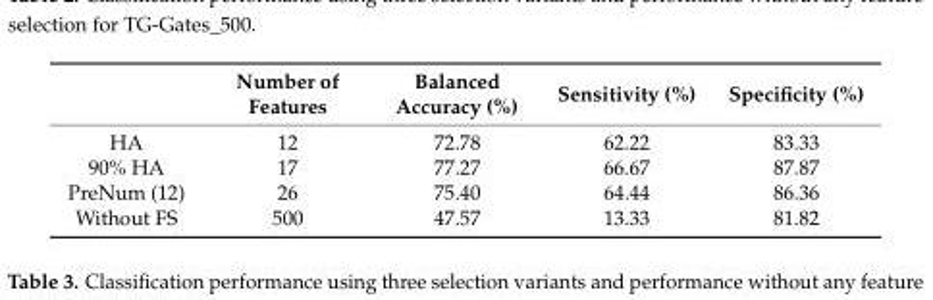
<table><thead><tr><td></td><td>Number of Features</td><td>Balanced Accuracy (%)</td><td>Sensitivity (%)</td><td>Specificity (%)</td></tr></thead><tbody><tr><td>HA</td><td>12</td><td>72.78</td><td>62.22</td><td>83.33</td></tr><tr><td>90% HA</td><td>17</td><td>77.27</td><td>66.67</td><td>87.87</td></tr><tr><td>PreNum (12)</td><td>26</td><td>75.40</td><td>64.44</td><td>86.36</td></tr><tr><td>Without FS</td><td>500</td><td>47.57</td><td>13.33</td><td>81.82</td></tr></tbody></table>